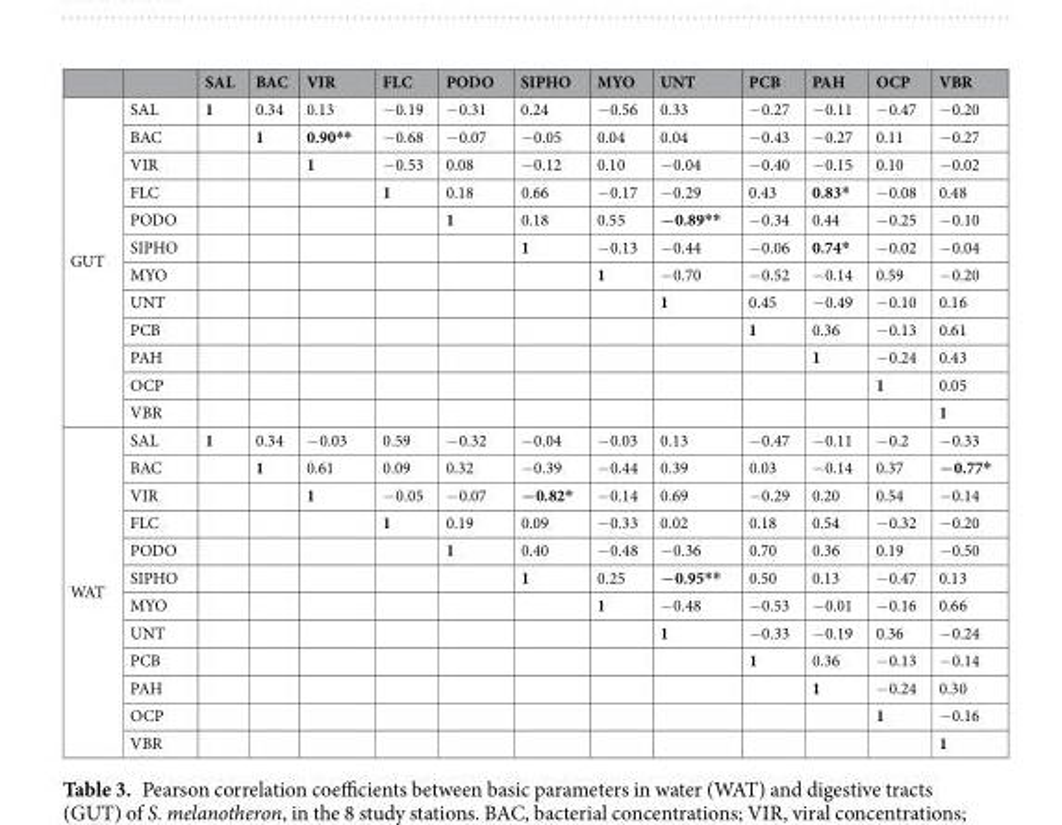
<table><thead><tr><td></td><td></td><td>SAL</td><td>BAC</td><td>VIR</td><td>FLC</td><td>PODO</td><td>SIPHO</td><td>MYO</td><td>UNT</td><td>PCB</td><td>PAH</td><td>OCP</td><td>VBR</td></tr></thead><tbody><tr><td rowspan="12">GUT</td><td>SAL</td><td>1</td><td>0.34</td><td>0.13</td><td>−0.19</td><td>−0.31</td><td>0.24</td><td>−0.56</td><td>0.33</td><td>−0.27</td><td>−0.11</td><td>−0.47</td><td>−0.20</td></tr><tr><td>BAC</td><td></td><td>1</td><td>0.90**</td><td>−0.68</td><td>−0.07</td><td>−0.05</td><td>0.04</td><td>0.04</td><td>−0.43</td><td>−0.27</td><td>0.11</td><td>−0.27</td></tr><tr><td>VIR</td><td></td><td></td><td>1</td><td>−0.53</td><td>0.08</td><td>−0.12</td><td>0.10</td><td>−0.04</td><td>−0.40</td><td>−0.15</td><td>0.10</td><td>−0.02</td></tr><tr><td>FLC</td><td></td><td></td><td></td><td>1</td><td>0.18</td><td>0.66</td><td>−0.17</td><td>−0.29</td><td>0.43</td><td>0.83*</td><td>−0.08</td><td>0.48</td></tr><tr><td>PODO</td><td></td><td></td><td></td><td></td><td>1</td><td>0.18</td><td>0.55</td><td>−0.89**</td><td>−0.34</td><td>0.44</td><td>−0.25</td><td>−0.10</td></tr><tr><td>SIPHO</td><td></td><td></td><td></td><td></td><td></td><td>1</td><td>−0.13</td><td>−0.44</td><td>−0.06</td><td>0.74*</td><td>−0.02</td><td>−0.04</td></tr><tr><td>MYO</td><td></td><td></td><td></td><td></td><td></td><td></td><td>1</td><td>−0.70</td><td>−0.52</td><td>−0.14</td><td>0.59</td><td>−0.20</td></tr><tr><td>UNT</td><td></td><td></td><td></td><td></td><td></td><td></td><td></td><td>1</td><td>0.45</td><td>−0.49</td><td>−0.10</td><td>0.16</td></tr><tr><td>PCB</td><td></td><td></td><td></td><td></td><td></td><td></td><td></td><td></td><td>1</td><td>0.36</td><td>−0.13</td><td>0.61</td></tr><tr><td>PAH</td><td></td><td></td><td></td><td></td><td></td><td></td><td></td><td></td><td></td><td>1</td><td>−0.24</td><td>0.43</td></tr><tr><td>OCP</td><td></td><td></td><td></td><td></td><td></td><td></td><td></td><td></td><td></td><td></td><td>1</td><td>0.05</td></tr><tr><td>VBR</td><td></td><td></td><td></td><td></td><td></td><td></td><td></td><td></td><td></td><td></td><td></td><td>1</td></tr><tr><td rowspan="12">WAT</td><td>SAL</td><td>1</td><td>0.34</td><td>−0.03</td><td>0.59</td><td>−0.32</td><td>−0.04</td><td>−0.03</td><td>0.13</td><td>−0.47</td><td>−0.11</td><td>−0.2</td><td>−0.33</td></tr><tr><td>BAC</td><td></td><td>1</td><td>0.61</td><td>0.09</td><td>0.32</td><td>−0.39</td><td>−0.44</td><td>0.39</td><td>0.03</td><td>−0.14</td><td>0.37</td><td>−0.77*</td></tr><tr><td>VIR</td><td></td><td></td><td>1</td><td>−0.05</td><td>−0.07</td><td>−0.82*</td><td>−0.14</td><td>0.69</td><td>−0.29</td><td>0.20</td><td>0.54</td><td>−0.14</td></tr><tr><td>FLC</td><td></td><td></td><td></td><td>1</td><td>0.19</td><td>0.09</td><td>−0.33</td><td>0.02</td><td>0.18</td><td>0.54</td><td>−0.32</td><td>−0.20</td></tr><tr><td>PODO</td><td></td><td></td><td></td><td></td><td>1</td><td>0.40</td><td>−0.48</td><td>−0.36</td><td>0.70</td><td>0.36</td><td>0.19</td><td>−0.50</td></tr><tr><td>SIPHO</td><td></td><td></td><td></td><td></td><td></td><td>1</td><td>0.25</td><td>−0.95**</td><td>0.50</td><td>0.13</td><td>−0.47</td><td>0.13</td></tr><tr><td>MYO</td><td></td><td></td><td></td><td></td><td></td><td></td><td>1</td><td>−0.48</td><td>−0.53</td><td>−0.01</td><td>−0.16</td><td>0.66</td></tr><tr><td>UNT</td><td></td><td></td><td></td><td></td><td></td><td></td><td></td><td>1</td><td>−0.33</td><td>−0.19</td><td>0.36</td><td>−0.24</td></tr><tr><td>PCB</td><td></td><td></td><td></td><td></td><td></td><td></td><td></td><td></td><td>1</td><td>0.36</td><td>−0.13</td><td>−0.14</td></tr><tr><td>PAH</td><td></td><td></td><td></td><td></td><td></td><td></td><td></td><td></td><td></td><td>1</td><td>−0.24</td><td>0.30</td></tr><tr><td>OCP</td><td></td><td></td><td></td><td></td><td></td><td></td><td></td><td></td><td></td><td></td><td>1</td><td>−0.16</td></tr><tr><td>VBR</td><td></td><td></td><td></td><td></td><td></td><td></td><td></td><td></td><td></td><td></td><td></td><td>1</td></tr></tbody></table>